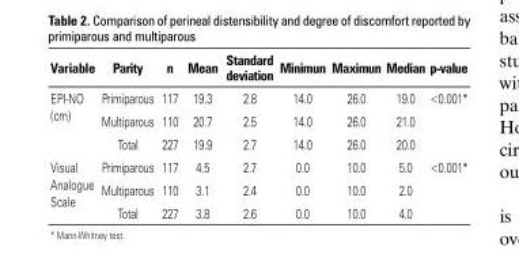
<table><thead><tr><td>Variable</td><td>Parity</td><td>n</td><td>Mean</td><td>Standard deviation</td><td>Minimun</td><td>Maximun</td><td>Median</td><td>p-value</td></tr></thead><tbody><tr><td rowspan="3">EPI-NO (cm)</td><td>Primiparous</td><td>117</td><td>19.3</td><td>2.8</td><td>14.0</td><td>26.0</td><td>19.0</td><td>&lt;0.001*</td></tr><tr><td>Multiparous</td><td>110</td><td>20.7</td><td>2.5</td><td>14.0</td><td>26.0</td><td>21.0</td><td></td></tr><tr><td>Total</td><td>227</td><td>19.9</td><td>2.7</td><td>14.0</td><td>26.0</td><td>20.0</td><td></td></tr><tr><td rowspan="3">Visual Analogue Scale</td><td>Primiparous</td><td>117</td><td>4.5</td><td>2.7</td><td>0.0</td><td>10.0</td><td>5.0</td><td>&lt;0.001*</td></tr><tr><td>Multiparous</td><td>110</td><td>3.1</td><td>2.4</td><td>0.0</td><td>10.0</td><td>2.0</td><td></td></tr><tr><td>Total</td><td>227</td><td>3.8</td><td>2.6</td><td>0.0</td><td>10.0</td><td>4.0</td><td></td></tr></tbody></table>